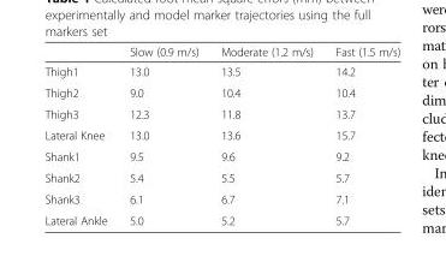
<table><thead><tr><td></td><td>Slow (0.9 m/s)</td><td>Moderate (1.2 m/s)</td><td>Fast (1.5 m/s)</td></tr></thead><tbody><tr><td>Thigh1</td><td>13.0</td><td>13.5</td><td>14.2</td></tr><tr><td>Thigh2</td><td>9.0</td><td>10.4</td><td>10.4</td></tr><tr><td>Thigh3</td><td>12.3</td><td>11.8</td><td>13.7</td></tr><tr><td>Lateral Knee</td><td>13.0</td><td>13.6</td><td>15.7</td></tr><tr><td>Shank1</td><td>9.5</td><td>9.6</td><td>9.2</td></tr><tr><td>Shank2</td><td>5.4</td><td>5.5</td><td>5.7</td></tr><tr><td>Shank3</td><td>6.1</td><td>6.7</td><td>7.1</td></tr><tr><td>Lateral Ankle</td><td>5.0</td><td>5.2</td><td>5.7</td></tr></tbody></table>